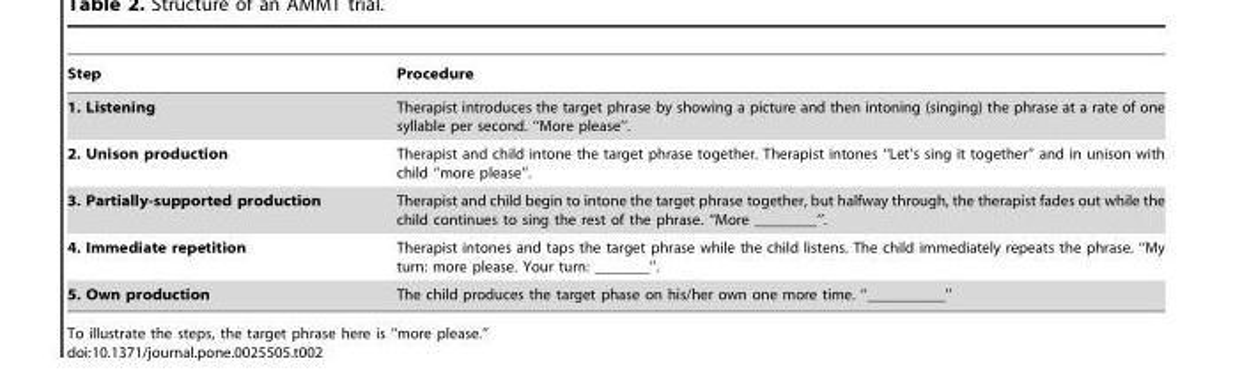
<table><thead><tr><td>Step</td><td>Procedure</td></tr></thead><tbody><tr><td>1. Listening</td><td>Therapist introduces the target phrase by showing a picture and then intoning (singing) the phrase at a rate of one syllable per second. ‘‘More please’’.</td></tr><tr><td>2. Unison production</td><td>Therapist and child intone the target phrase together. Therapist intones ‘‘Let’s sing it together’’ and in unison with child ‘‘more please’’.</td></tr><tr><td>3. Partially-supported production</td><td>Therapist and child begin to intone the target phrase together, but halfway through, the therapist fades out while the child continues to sing the rest of the phrase. ‘‘More ________’’.</td></tr><tr><td>4. Immediate repetition</td><td>Therapist intones and taps the target phrase while the child listens. The child immediately repeats the phrase. ‘‘My turn: more please. Your turn: _______’’.</td></tr><tr><td>5. Own production</td><td>The child produces the target phase on his/her own one more time. ‘‘__________’’</td></tr></tbody></table>